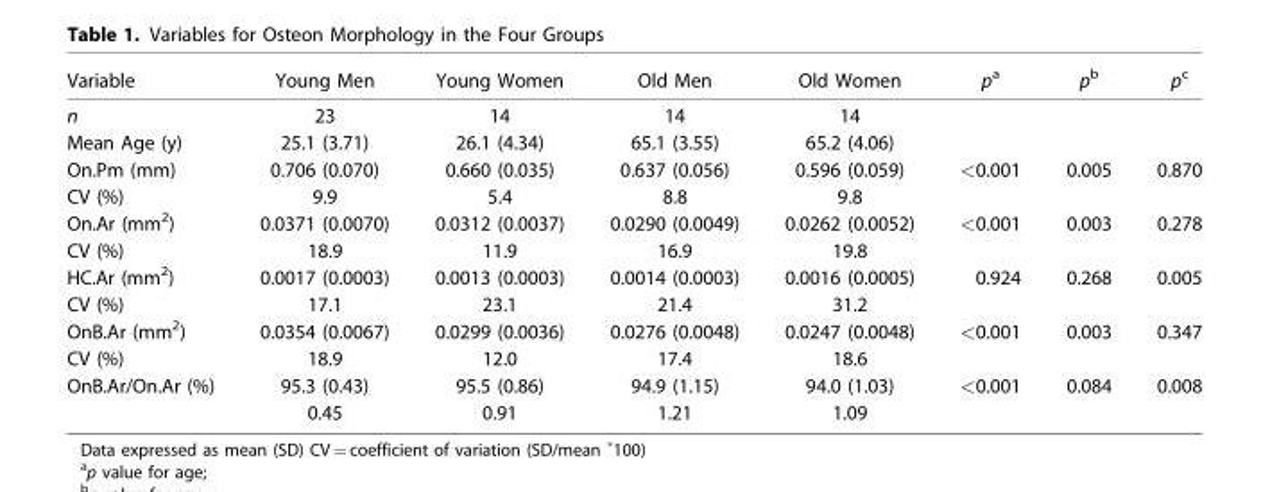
<table><thead><tr><td>Variable</td><td>Young Men</td><td>Young Women</td><td>Old Men</td><td>Old Women</td><td>p<sup>a</sup></td><td>p<sup>b</sup></td><td>p<sup>c</sup></td></tr></thead><tbody><tr><td>n</td><td>23</td><td>14</td><td>14</td><td>14</td><td></td><td></td><td></td></tr><tr><td>Mean Age (y)</td><td>25.1 (3.71)</td><td>26.1 (4.34)</td><td>65.1 (3.55)</td><td>65.2 (4.06)</td><td></td><td></td><td></td></tr><tr><td>On.Pm (mm)</td><td>0.706 (0.070)</td><td>0.660 (0.035)</td><td>0.637 (0.056)</td><td>0.596 (0.059)</td><td>&lt;0.001</td><td>0.005</td><td>0.870</td></tr><tr><td>CV (%)</td><td>9.9</td><td>5.4</td><td>8.8</td><td>9.8</td><td></td><td></td><td></td></tr><tr><td>On.Ar (mm<sup>2</sup>)</td><td>0.0371 (0.0070)</td><td>0.0312 (0.0037)</td><td>0.0290 (0.0049)</td><td>0.0262 (0.0052)</td><td>&lt;0.001</td><td>0.003</td><td>0.278</td></tr><tr><td>CV (%)</td><td>18.9</td><td>11.9</td><td>16.9</td><td>19.8</td><td></td><td></td><td></td></tr><tr><td>HC.Ar (mm<sup>2</sup>)</td><td>0.0017 (0.0003)</td><td>0.0013 (0.0003)</td><td>0.0014 (0.0003)</td><td>0.0016 (0.0005)</td><td>0.924</td><td>0.268</td><td>0.005</td></tr><tr><td>CV (%)</td><td>17.1</td><td>23.1</td><td>21.4</td><td>31.2</td><td></td><td></td><td></td></tr><tr><td>OnB.Ar (mm<sup>2</sup>)</td><td>0.0354 (0.0067)</td><td>0.0299 (0.0036)</td><td>0.0276 (0.0048)</td><td>0.0247 (0.0048)</td><td>&lt;0.001</td><td>0.003</td><td>0.347</td></tr><tr><td>CV (%)</td><td>18.9</td><td>12.0</td><td>17.4</td><td>18.6</td><td></td><td></td><td></td></tr><tr><td rowspan="2">OnB.Ar/On.Ar (%)</td><td>95.3 (0.43)</td><td>95.5 (0.86)</td><td>94.9 (1.15)</td><td>94.0 (1.03)</td><td>&lt;0.001</td><td>0.084</td><td>0.008</td></tr><tr><td>0.45</td><td>0.91</td><td>1.21</td><td>1.09</td><td></td><td></td><td></td></tr></tbody></table>